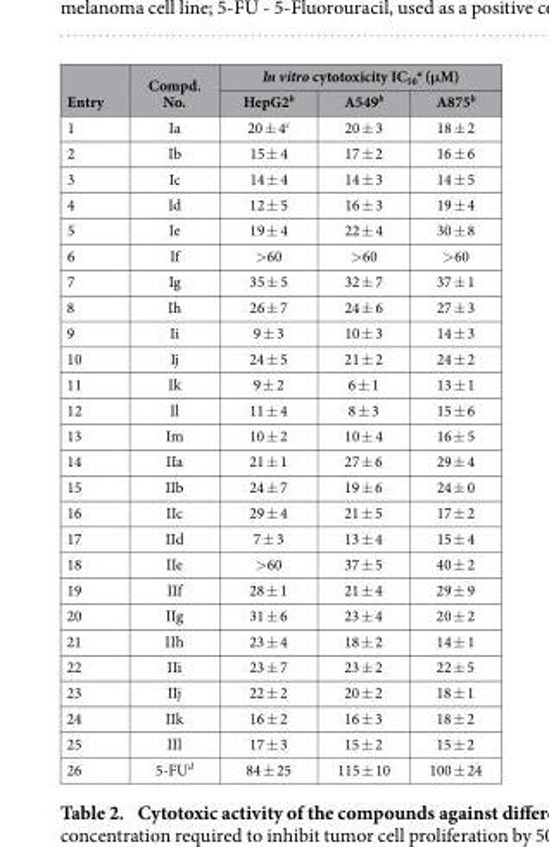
<table><thead><tr><td rowspan="2">Entry</td><td rowspan="2">Compd. No.</td><td colspan="3">In vitro cytotoxicity IC<sub>50</sub> <sup>a</sup> (μM)</td></tr><tr><td>HepG2<sup>b</sup></td><td>A549<sup>b</sup></td><td>A875<sup>b</sup></td></tr></thead><tbody><tr><td>1</td><td>Ia</td><td>20 ± 4<sup>c</sup></td><td>20 ± 3</td><td>18 ± 2</td></tr><tr><td>2</td><td>Ib</td><td>15 ± 4</td><td>17 ± 2</td><td>16 ± 6</td></tr><tr><td>3</td><td>Ic</td><td>14 ± 4</td><td>14 ± 3</td><td>14 ± 5</td></tr><tr><td>4</td><td>Id</td><td>12 ± 5</td><td>16 ± 3</td><td>19 ± 4</td></tr><tr><td>5</td><td>Ie</td><td>19 ± 4</td><td>22 ± 4</td><td>30 ± 8</td></tr><tr><td>6</td><td>If</td><td>&gt; 60</td><td>&gt; 60</td><td>&gt; 60</td></tr><tr><td>7</td><td>Ig</td><td>35 ± 5</td><td>32 ± 7</td><td>37 ± 1</td></tr><tr><td>8</td><td>Ih</td><td>26 ± 7</td><td>24 ± 6</td><td>27 ± 3</td></tr><tr><td>9</td><td>Ii</td><td>9 ± 3</td><td>10 ± 3</td><td>14 ± 3</td></tr><tr><td>10</td><td>Ij</td><td>24 ± 5</td><td>21 ± 2</td><td>24 ± 2</td></tr><tr><td>11</td><td>Ik</td><td>9 ± 2</td><td>6 ± 1</td><td>13 ± 1</td></tr><tr><td>12</td><td>Il</td><td>11 ± 4</td><td>8 ± 3</td><td>15 ± 6</td></tr><tr><td>13</td><td>Im</td><td>10 ± 2</td><td>10 ± 4</td><td>16 ± 5</td></tr><tr><td>14</td><td>IIa</td><td>21 ± 1</td><td>27 ± 6</td><td>29 ± 4</td></tr><tr><td>15</td><td>IIb</td><td>24 ± 7</td><td>19 ± 6</td><td>24 ± 0</td></tr><tr><td>16</td><td>IIc</td><td>29 ± 4</td><td>21 ± 5</td><td>17 ± 2</td></tr><tr><td>17</td><td>IId</td><td>7 ± 3</td><td>13 ± 4</td><td>15 ± 4</td></tr><tr><td>18</td><td>IIe</td><td>&gt; 60</td><td>37 ± 5</td><td>40 ± 2</td></tr><tr><td>19</td><td>IIf</td><td>28 ± 1</td><td>21 ± 4</td><td>29 ± 9</td></tr><tr><td>20</td><td>IIg</td><td>31 ± 6</td><td>23 ± 4</td><td>20 ± 2</td></tr><tr><td>21</td><td>IIh</td><td>23 ± 4</td><td>18 ± 2</td><td>14 ± 1</td></tr><tr><td>22</td><td>IIi</td><td>23 ± 7</td><td>23 ± 2</td><td>22 ± 5</td></tr><tr><td>23</td><td>IIj</td><td>22 ± 2</td><td>20 ± 2</td><td>18 ± 1</td></tr><tr><td>24</td><td>IIk</td><td>16 ± 2</td><td>16 ± 3</td><td>18 ± 2</td></tr><tr><td>25</td><td>IIl</td><td>17 ± 3</td><td>15 ± 2</td><td>15 ± 2</td></tr><tr><td>26</td><td>5-FU<sup>d</sup></td><td>84 ± 25</td><td>115 ± 10</td><td>100 ± 24</td></tr></tbody></table>